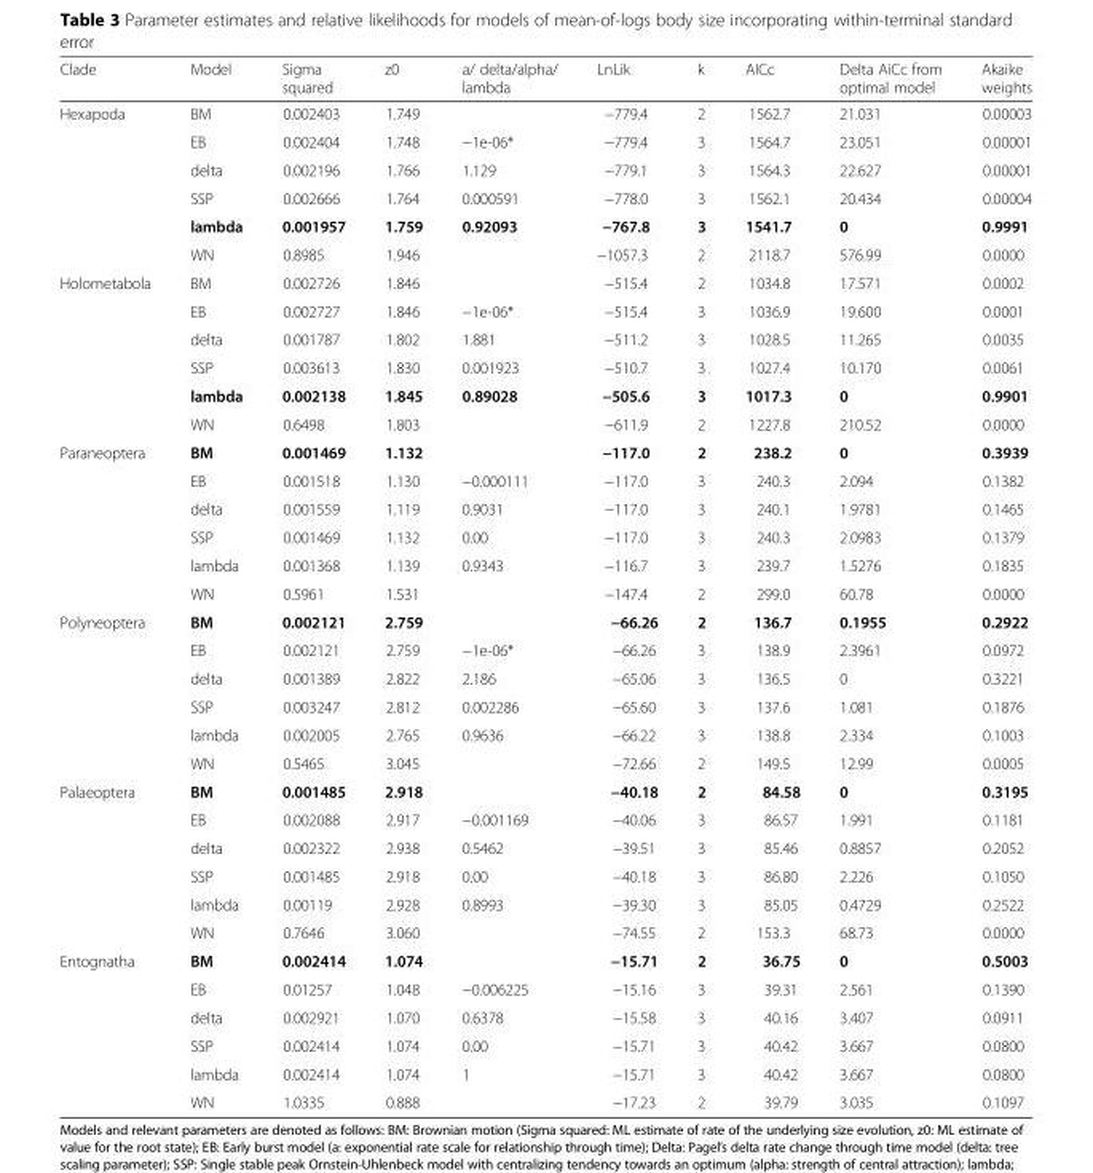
<table><thead><tr><td>Clade</td><td>Model</td><td>Sigma squared</td><td>z0</td><td>a/ delta/alpha/ lambda</td><td>LnLik</td><td>k</td><td>AICc</td><td>Delta AiCc from optimal model</td><td>Akaike weights</td></tr></thead><tbody><tr><td rowspan="6">Hexapoda</td><td>BM</td><td>0.002403</td><td>1.749</td><td></td><td>−779.4</td><td>2</td><td>1562.7</td><td>21.031</td><td>0.00003</td></tr><tr><td>EB</td><td>0.002404</td><td>1.748</td><td>−1e-06*</td><td>−779.4</td><td>3</td><td>1564.7</td><td>23.051</td><td>0.00001</td></tr><tr><td>delta</td><td>0.002196</td><td>1.766</td><td>1.129</td><td>−779.1</td><td>3</td><td>1564.3</td><td>22.627</td><td>0.00001</td></tr><tr><td>SSP</td><td>0.002666</td><td>1.764</td><td>0.000591</td><td>−778.0</td><td>3</td><td>1562.1</td><td>20.434</td><td>0.00004</td></tr><tr><td>lambda</td><td>0.001957</td><td>1.759</td><td>0.92093</td><td>−767.8</td><td>3</td><td>1541.7</td><td>0</td><td>0.9991</td></tr><tr><td>WN</td><td>0.8985</td><td>1.946</td><td></td><td>−1057.3</td><td>2</td><td>2118.7</td><td>576.99</td><td>0.0000</td></tr><tr><td rowspan="6">Holometabola</td><td>BM</td><td>0.002726</td><td>1.846</td><td></td><td>−515.4</td><td>2</td><td>1034.8</td><td>17.571</td><td>0.0002</td></tr><tr><td>EB</td><td>0.002727</td><td>1.846</td><td>−1e-06*</td><td>−515.4</td><td>3</td><td>1036.9</td><td>19.600</td><td>0.0001</td></tr><tr><td>delta</td><td>0.001787</td><td>1.802</td><td>1.881</td><td>−511.2</td><td>3</td><td>1028.5</td><td>11.265</td><td>0.0035</td></tr><tr><td>SSP</td><td>0.003613</td><td>1.830</td><td>0.001923</td><td>−510.7</td><td>3</td><td>1027.4</td><td>10.170</td><td>0.0061</td></tr><tr><td>lambda</td><td>0.002138</td><td>1.845</td><td>0.89028</td><td>−505.6</td><td>3</td><td>1017.3</td><td>0</td><td>0.9901</td></tr><tr><td>WN</td><td>0.6498</td><td>1.803</td><td></td><td>−611.9</td><td>2</td><td>1227.8</td><td>210.52</td><td>0.0000</td></tr><tr><td rowspan="6">Paraneoptera</td><td>BM</td><td>0.001469</td><td>1.132</td><td></td><td>−117.0</td><td>2</td><td>238.2</td><td>0</td><td>0.3939</td></tr><tr><td>EB</td><td>0.001518</td><td>1.130</td><td>−0.000111</td><td>−117.0</td><td>3</td><td>240.3</td><td>2.094</td><td>0.1382</td></tr><tr><td>delta</td><td>0.001559</td><td>1.119</td><td>0.9031</td><td>−117.0</td><td>3</td><td>240.1</td><td>1.9781</td><td>0.1465</td></tr><tr><td>SSP</td><td>0.001469</td><td>1.132</td><td>0.00</td><td>−117.0</td><td>3</td><td>240.3</td><td>2.0983</td><td>0.1379</td></tr><tr><td>lambda</td><td>0.001368</td><td>1.139</td><td>0.9343</td><td>−116.7</td><td>3</td><td>239.7</td><td>1.5276</td><td>0.1835</td></tr><tr><td>WN</td><td>0.5961</td><td>1.531</td><td></td><td>−147.4</td><td>2</td><td>299.0</td><td>60.78</td><td>0.0000</td></tr><tr><td rowspan="6">Polyneoptera</td><td>BM</td><td>0.002121</td><td>2.759</td><td></td><td>−66.26</td><td>2</td><td>136.7</td><td>0.1955</td><td>0.2922</td></tr><tr><td>EB</td><td>0.002121</td><td>2.759</td><td>−1e-06*</td><td>−66.26</td><td>3</td><td>138.9</td><td>2.3961</td><td>0.0972</td></tr><tr><td>delta</td><td>0.001389</td><td>2.822</td><td>2.186</td><td>−65.06</td><td>3</td><td>136.5</td><td>0</td><td>0.3221</td></tr><tr><td>SSP</td><td>0.003247</td><td>2.812</td><td>0.002286</td><td>−65.60</td><td>3</td><td>137.6</td><td>1.081</td><td>0.1876</td></tr><tr><td>lambda</td><td>0.002005</td><td>2.765</td><td>0.9636</td><td>−66.22</td><td>3</td><td>138.8</td><td>2.334</td><td>0.1003</td></tr><tr><td>WN</td><td>0.5465</td><td>3.045</td><td></td><td>−72.66</td><td>2</td><td>149.5</td><td>12.99</td><td>0.0005</td></tr><tr><td rowspan="6">Palaeoptera</td><td>BM</td><td>0.001485</td><td>2.918</td><td></td><td>−40.18</td><td>2</td><td>84.58</td><td>0</td><td>0.3195</td></tr><tr><td>EB</td><td>0.002088</td><td>2.917</td><td>−0.001169</td><td>−40.06</td><td>3</td><td>86.57</td><td>1.991</td><td>0.1181</td></tr><tr><td>delta</td><td>0.002322</td><td>2.938</td><td>0.5462</td><td>−39.51</td><td>3</td><td>85.46</td><td>0.8857</td><td>0.2052</td></tr><tr><td>SSP</td><td>0.001485</td><td>2.918</td><td>0.00</td><td>−40.18</td><td>3</td><td>86.80</td><td>2.226</td><td>0.1050</td></tr><tr><td>lambda</td><td>0.00119</td><td>2.928</td><td>0.8993</td><td>−39.30</td><td>3</td><td>85.05</td><td>0.4729</td><td>0.2522</td></tr><tr><td>WN</td><td>0.7646</td><td>3.060</td><td></td><td>−74.55</td><td>2</td><td>153.3</td><td>68.73</td><td>0.0000</td></tr><tr><td rowspan="6">Entognatha</td><td>BM</td><td>0.002414</td><td>1.074</td><td></td><td>−15.71</td><td>2</td><td>36.75</td><td>0</td><td>0.5003</td></tr><tr><td>EB</td><td>0.01257</td><td>1.048</td><td>−0.006225</td><td>−15.16</td><td>3</td><td>39.31</td><td>2.561</td><td>0.1390</td></tr><tr><td>delta</td><td>0.002921</td><td>1.070</td><td>0.6378</td><td>−15.58</td><td>3</td><td>40.16</td><td>3.407</td><td>0.0911</td></tr><tr><td>SSP</td><td>0.002414</td><td>1.074</td><td>0.00</td><td>−15.71</td><td>3</td><td>40.42</td><td>3.667</td><td>0.0800</td></tr><tr><td>lambda</td><td>0.002414</td><td>1.074</td><td>1</td><td>−15.71</td><td>3</td><td>40.42</td><td>3.667</td><td>0.0800</td></tr><tr><td>WN</td><td>1.0335</td><td>0.888</td><td></td><td>−17.23</td><td>2</td><td>39.79</td><td>3.035</td><td>0.1097</td></tr></tbody></table>